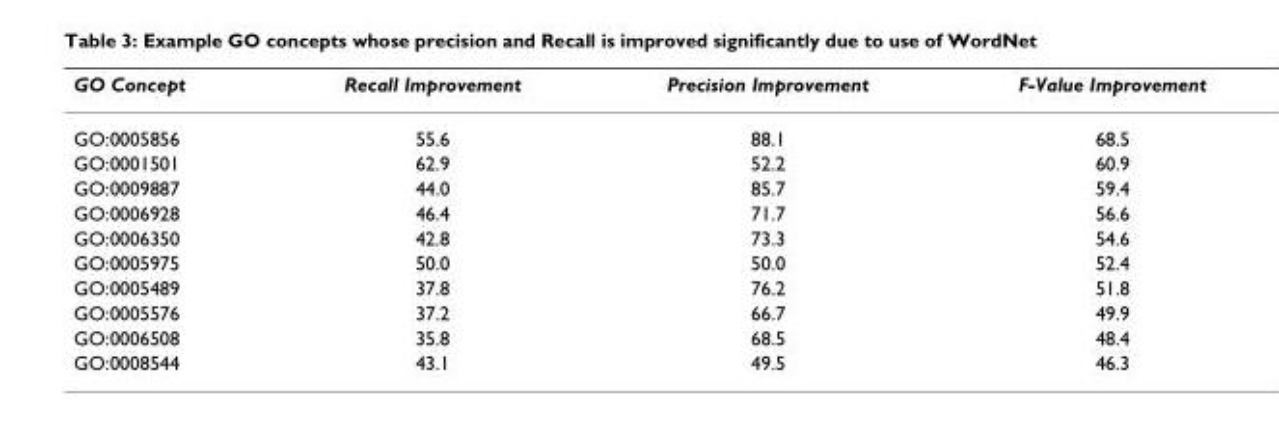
<table><thead><tr><td>GO Concept</td><td>Recall Improvement</td><td>Precision Improvement</td><td>F-Value Improvement</td></tr></thead><tbody><tr><td>GO:0005856</td><td>55.6</td><td>88.1</td><td>68.5</td></tr><tr><td>GO:0001501</td><td>62.9</td><td>52.2</td><td>60.9</td></tr><tr><td>GO:0009887</td><td>44.0</td><td>85.7</td><td>59.4</td></tr><tr><td>GO:0006928</td><td>46.4</td><td>71.7</td><td>56.6</td></tr><tr><td>GO:0006350</td><td>42.8</td><td>73.3</td><td>54.6</td></tr><tr><td>GO:0005975</td><td>50.0</td><td>50.0</td><td>52.4</td></tr><tr><td>GO:0005489</td><td>37.8</td><td>76.2</td><td>51.8</td></tr><tr><td>GO:0005576</td><td>37.2</td><td>66.7</td><td>49.9</td></tr><tr><td>GO:0006508</td><td>35.8</td><td>68.5</td><td>48.4</td></tr><tr><td>GO:0008544</td><td>43.1</td><td>49.5</td><td>46.3</td></tr></tbody></table>